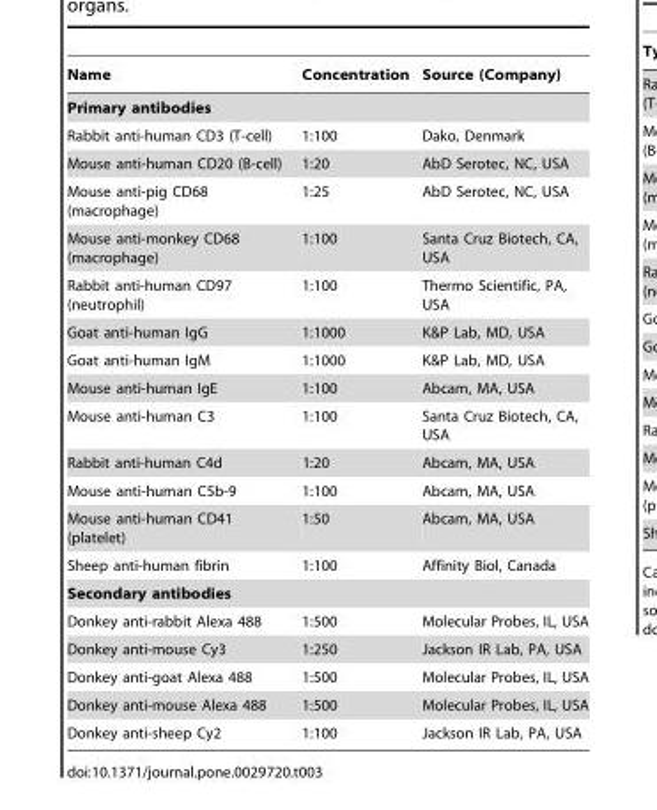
<table><thead><tr><td>Name</td><td>Concentration</td><td>Source (Company)</td></tr></thead><tbody><tr><td colspan="3">Primary antibodies</td></tr><tr><td>Rabbit anti-human CD3 (T-cell)</td><td>1:100</td><td>Dako, Denmark</td></tr><tr><td>Mouse anti-human CD20 (B-cell)</td><td>1:20</td><td>AbD Serotec, NC, USA</td></tr><tr><td>Mouse anti-pig CD68 (macrophage)</td><td>1:25</td><td>AbD Serotec, NC, USA</td></tr><tr><td>Mouse anti-monkey CD68 (macrophage)</td><td>1:100</td><td>Santa Cruz Biotech, CA, USA</td></tr><tr><td>Rabbit anti-human CD97 (neutrophil)</td><td>1:100</td><td>Thermo Scientific, PA, USA</td></tr><tr><td>Goat anti-human IgG</td><td>1:1000</td><td>K&amp;P Lab, MD, USA</td></tr><tr><td>Goat anti-human IgM</td><td>1:1000</td><td>K&amp;P Lab, MD, USA</td></tr><tr><td>Mouse anti-human IgE</td><td>1:100</td><td>Abcam, MA, USA</td></tr><tr><td>Mouse anti-human C3</td><td>1:100</td><td>Santa Cruz Biotech, CA, USA</td></tr><tr><td>Rabbit anti-human C4d</td><td>1:20</td><td>Abcam, MA, USA</td></tr><tr><td>Mouse anti-human C5b-9</td><td>1:100</td><td>Abcam, MA, USA</td></tr><tr><td>Mouse anti-human CD41 (platelet)</td><td>1:50</td><td>Abcam, MA, USA</td></tr><tr><td>Sheep anti-human fibrin</td><td>1:100</td><td>Affinity Biol, Canada</td></tr><tr><td colspan="3">Secondary antibodies</td></tr><tr><td>Donkey anti-rabbit Alexa 488</td><td>1:500</td><td>Molecular Probes, IL, USA</td></tr><tr><td>Donkey anti-mouse Cy3</td><td>1:250</td><td>Jackson IR Lab, PA, USA</td></tr><tr><td>Donkey anti-goat Alexa 488</td><td>1:500</td><td>Molecular Probes, IL, USA</td></tr><tr><td>Donkey anti-mouse Alexa 488</td><td>1:500</td><td>Molecular Probes, IL, USA</td></tr><tr><td>Donkey anti-sheep Cy2</td><td>1:100</td><td>Jackson IR Lab, PA, USA</td></tr></tbody></table>